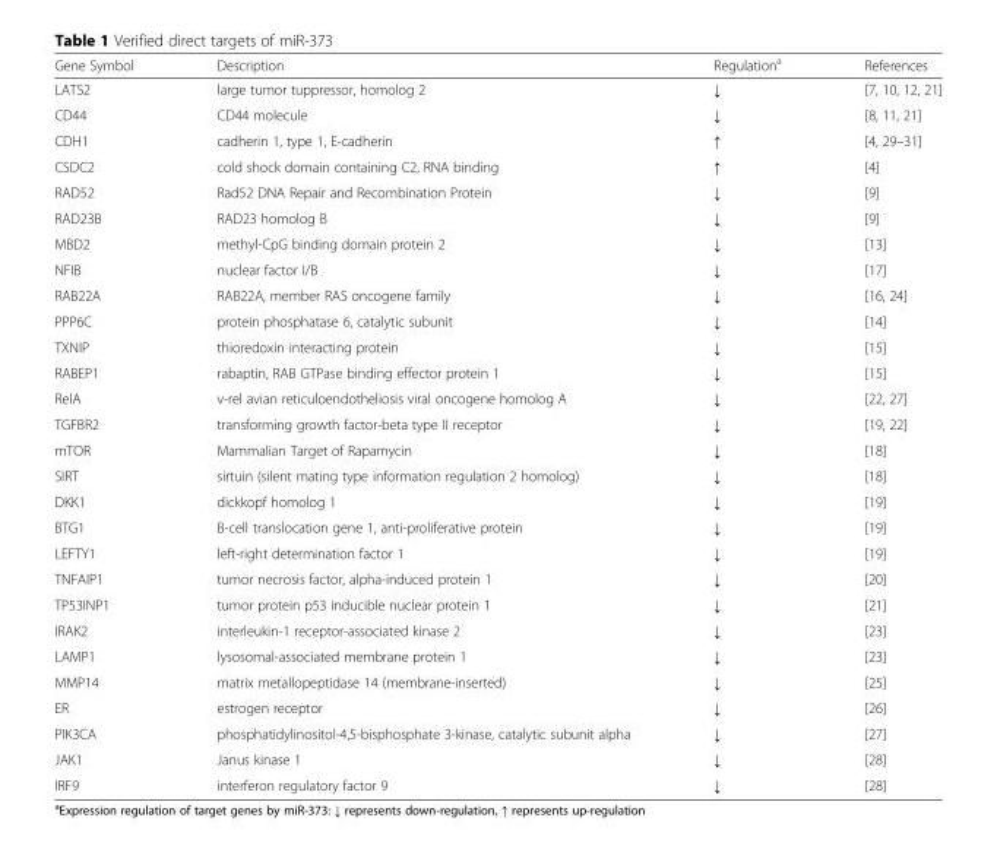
<table><thead><tr><td>Gene Symbol</td><td>Description</td><td>Regulation<sup>a</sup></td><td>References</td></tr></thead><tbody><tr><td>LATS2</td><td>large tumor tuppressor, homolog 2</td><td>↓</td><td>[7, 10, 12, 21]</td></tr><tr><td>CD44</td><td>CD44 molecule</td><td>↓</td><td>[8, 11, 21]</td></tr><tr><td>CDH1</td><td>cadherin 1, type 1, E-cadherin</td><td>↑</td><td>[4, 29–31]</td></tr><tr><td>CSDC2</td><td>cold shock domain containing C2, RNA binding</td><td>↑</td><td>[4]</td></tr><tr><td>RAD52</td><td>Rad52 DNA Repair and Recombination Protein</td><td>↓</td><td>[9]</td></tr><tr><td>RAD23B</td><td>RAD23 homolog B</td><td>↓</td><td>[9]</td></tr><tr><td>MBD2</td><td>methyl-CpG binding domain protein 2</td><td>↓</td><td>[13]</td></tr><tr><td>NFIB</td><td>nuclear factor I/B</td><td>↓</td><td>[17]</td></tr><tr><td>RAB22A</td><td>RAB22A, member RAS oncogene family</td><td>↓</td><td>[16, 24]</td></tr><tr><td>PPP6C</td><td>protein phosphatase 6, catalytic subunit</td><td>↓</td><td>[14]</td></tr><tr><td>TXNIP</td><td>thioredoxin interacting protein</td><td>↓</td><td>[15]</td></tr><tr><td>RABEP1</td><td>rabaptin, RAB GTPase binding effector protein 1</td><td>↓</td><td>[15]</td></tr><tr><td>RelA</td><td>v-rel avian reticuloendotheliosis viral oncogene homolog A</td><td>↓</td><td>[22, 27]</td></tr><tr><td>TGFBR2</td><td>transforming growth factor-beta type II receptor</td><td>↓</td><td>[19, 22]</td></tr><tr><td>mTOR</td><td>Mammalian Target of Rapamycin</td><td>↓</td><td>[18]</td></tr><tr><td>SIRT</td><td>sirtuin (silent mating type information regulation 2 homolog)</td><td>↓</td><td>[18]</td></tr><tr><td>DKK1</td><td>dickkopf homolog 1</td><td>↓</td><td>[19]</td></tr><tr><td>BTG1</td><td>B-cell translocation gene 1, anti-proliferative protein</td><td>↓</td><td>[19]</td></tr><tr><td>LEFTY1</td><td>left-right determination factor 1</td><td>↓</td><td>[19]</td></tr><tr><td>TNFAIP1</td><td>tumor necrosis factor, alpha-induced protein 1</td><td>↓</td><td>[20]</td></tr><tr><td>TP53INP1</td><td>tumor protein p53 inducible nuclear protein 1</td><td>↓</td><td>[21]</td></tr><tr><td>IRAK2</td><td>interleukin-1 receptor-associated kinase 2</td><td>↓</td><td>[23]</td></tr><tr><td>LAMP1</td><td>lysosomal-associated membrane protein 1</td><td>↓</td><td>[23]</td></tr><tr><td>MMP14</td><td>matrix metallopeptidase 14 (membrane-inserted)</td><td>↓</td><td>[25]</td></tr><tr><td>ER</td><td>estrogen receptor</td><td>↓</td><td>[26]</td></tr><tr><td>PIK3CA</td><td>phosphatidylinositol-4,5-bisphosphate 3-kinase, catalytic subunit alpha</td><td>↓</td><td>[27]</td></tr><tr><td>JAK1</td><td>Janus kinase 1</td><td>↓</td><td>[28]</td></tr><tr><td>IRF9</td><td>interferon regulatory factor 9</td><td>↓</td><td>[28]</td></tr></tbody></table>